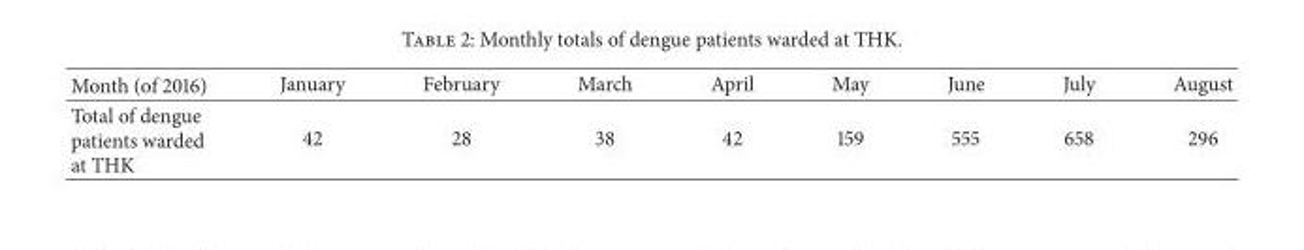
<table><thead><tr><td>Month (of 2016)</td><td>January</td><td>February</td><td>March</td><td>April</td><td>May</td><td>June</td><td>July</td><td>August</td></tr></thead><tbody><tr><td>Total of dengue patients warded at THK</td><td>42</td><td>28</td><td>38</td><td>42</td><td>159</td><td>555</td><td>658</td><td>296</td></tr></tbody></table>